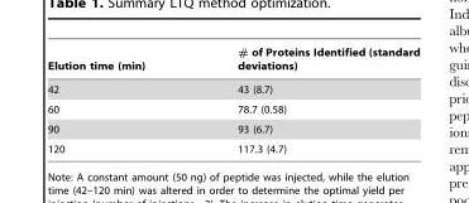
<table><thead><tr><td>Elution time (min)</td><td># of Proteins Identified (standard deviations)</td></tr></thead><tbody><tr><td>42</td><td>43 (8.7)</td></tr><tr><td>60</td><td>78.7 (0.58)</td></tr><tr><td>90</td><td>93 (6.7)</td></tr><tr><td>120</td><td>117.3 (4.7)</td></tr></tbody></table>